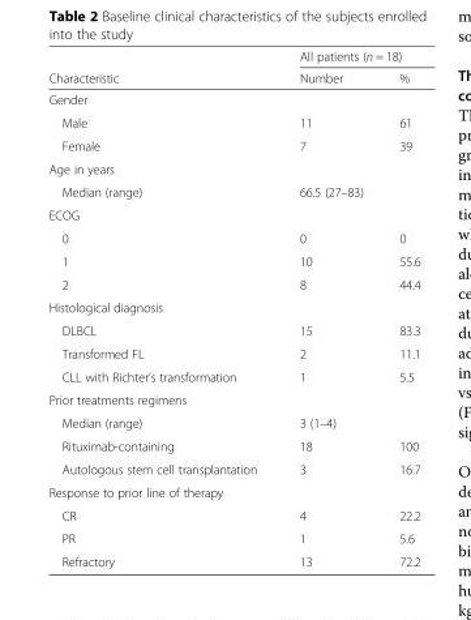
<table><thead><tr><td rowspan="2">Characteristic</td><td colspan="2">All patients (n = 18)</td></tr><tr><td>Number</td><td>%</td></tr></thead><tbody><tr><td colspan="3">Gender</td></tr><tr><td>Male</td><td>11</td><td>61</td></tr><tr><td>Female</td><td>7</td><td>39</td></tr><tr><td colspan="3">Age in years</td></tr><tr><td>Median (range)</td><td colspan="2">66.5 (27–83)</td></tr><tr><td colspan="3">ECOG</td></tr><tr><td>0</td><td>0</td><td>0</td></tr><tr><td>1</td><td>10</td><td>55.6</td></tr><tr><td>2</td><td>8</td><td>44.4</td></tr><tr><td colspan="3">Histological diagnosis</td></tr><tr><td>DLBCL</td><td>15</td><td>83.3</td></tr><tr><td>Transformed FL</td><td>2</td><td>11.1</td></tr><tr><td>CLL with Richter’s transformation</td><td>1</td><td>5.5</td></tr><tr><td colspan="3">Prior treatments regimens</td></tr><tr><td>Median (range)</td><td colspan="2">3 (1–4)</td></tr><tr><td>Rituximab-containing</td><td>18</td><td>100</td></tr><tr><td>Autologous stem cell transplantation</td><td>3</td><td>16.7</td></tr><tr><td colspan="3">Response to prior line of therapy</td></tr><tr><td>CR</td><td>4</td><td>22.2</td></tr><tr><td>PR</td><td>1</td><td>5.6</td></tr><tr><td>Refractory</td><td>13</td><td>72.2</td></tr></tbody></table>